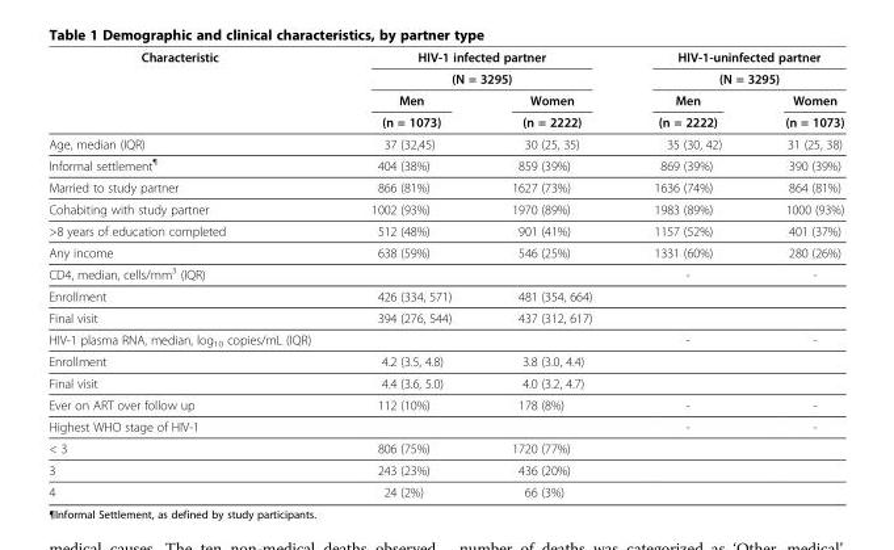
<table><thead><tr><td rowspan="4">Characteristic</td><td rowspan="2" colspan="2">HIV-1 infected partner (N = 3295)</td><td rowspan="2" colspan="2">HIV-1-uninfected partner (N = 3295)</td></tr><tr></tr><tr><td rowspan="2">Men (n = 1073)</td><td rowspan="2">Women (n = 2222)</td><td rowspan="2">Men (n = 2222)</td><td rowspan="2">Women (n = 1073)</td></tr><tr></tr></thead><tbody><tr><td>Age, median (IQR)</td><td>37 (32,45)</td><td>30 (25, 35)</td><td>35 (30, 42)</td><td>31 (25, 38)</td></tr><tr><td>Informal settlement<sup>¶</sup></td><td>404 (38%)</td><td>859 (39%)</td><td>869 (39%)</td><td>390 (39%)</td></tr><tr><td>Married to study partner</td><td>866 (81%)</td><td>1627 (73%)</td><td>1636 (74%)</td><td>864 (81%)</td></tr><tr><td>Cohabiting with study partner</td><td>1002 (93%)</td><td>1970 (89%)</td><td>1983 (89%)</td><td>1000 (93%)</td></tr><tr><td>&gt;8 years of education completed</td><td>512 (48%)</td><td>901 (41%)</td><td>1157 (52%)</td><td>401 (37%)</td></tr><tr><td>Any income</td><td>638 (59%)</td><td>546 (25%)</td><td>1331 (60%)</td><td>280 (26%)</td></tr><tr><td>CD4, median, cells/mm<sup>3</sup> (IQR)</td><td></td><td></td><td>-</td><td>-</td></tr><tr><td>Enrollment</td><td>426 (334, 571)</td><td>481 (354, 664)</td><td></td><td></td></tr><tr><td>Final visit</td><td>394 (276, 544)</td><td>437 (312, 617)</td><td></td><td></td></tr><tr><td>HIV-1 plasma RNA, median, log<sub>10</sub> copies/mL (IQR)</td><td></td><td></td><td>-</td><td>-</td></tr><tr><td>Enrollment</td><td>4.2 (3.5, 4.8)</td><td>3.8 (3.0, 4.4)</td><td></td><td></td></tr><tr><td>Final visit</td><td>4.4 (3.6, 5.0)</td><td>4.0 (3.2, 4.7)</td><td></td><td></td></tr><tr><td>Ever on ART over follow up</td><td>112 (10%)</td><td>178 (8%)</td><td>-</td><td>-</td></tr><tr><td>Highest WHO stage of HIV-1</td><td></td><td></td><td>-</td><td>-</td></tr><tr><td>&lt; 3</td><td>806 (75%)</td><td>1720 (77%)</td><td></td><td></td></tr><tr><td>3</td><td>243 (23%)</td><td>436 (20%)</td><td></td><td></td></tr><tr><td>4</td><td>24 (2%)</td><td>66 (3%)</td><td></td><td></td></tr></tbody></table>